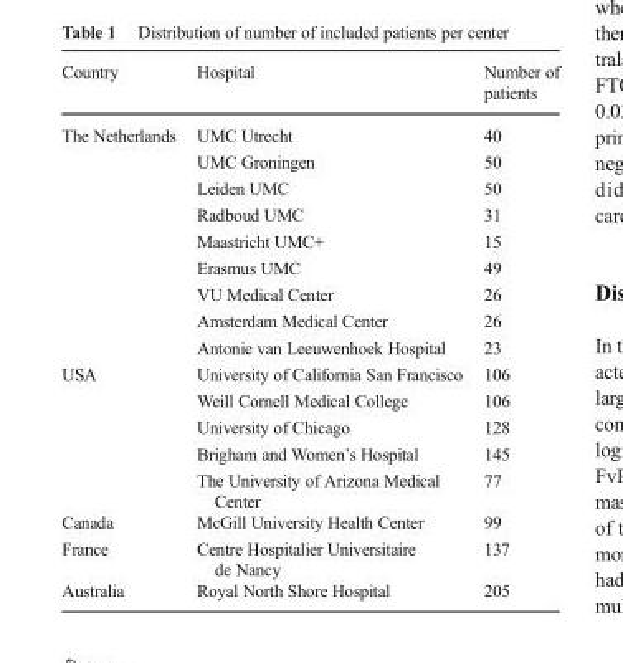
<table><thead><tr><td>Country</td><td>Hospital</td><td>Number of patients</td></tr></thead><tbody><tr><td rowspan="9">The Netherlands</td><td>UMC Utrecht</td><td>40</td></tr><tr><td>UMC Groningen</td><td>50</td></tr><tr><td>Leiden UMC</td><td>50</td></tr><tr><td>Radboud UMC</td><td>31</td></tr><tr><td>Maastricht UMC+</td><td>15</td></tr><tr><td>Erasmus UMC</td><td>49</td></tr><tr><td>VU Medical Center</td><td>26</td></tr><tr><td>Amsterdam Medical Center</td><td>26</td></tr><tr><td>Antonie van Leeuwenhoek Hospital</td><td>23</td></tr><tr><td rowspan="5">USA</td><td>University of California San Francisco</td><td>106</td></tr><tr><td>Weill Cornell Medical College</td><td>106</td></tr><tr><td>University of Chicago</td><td>128</td></tr><tr><td>Brigham and Women’s Hospital</td><td>145</td></tr><tr><td>The University of Arizona Medical Center</td><td>77</td></tr><tr><td>Canada</td><td>McGill University Health Center</td><td>99</td></tr><tr><td>France</td><td>Centre Hospitalier Universitaire de Nancy</td><td>137</td></tr><tr><td>Australia</td><td>Royal North Shore Hospital</td><td>205</td></tr></tbody></table>